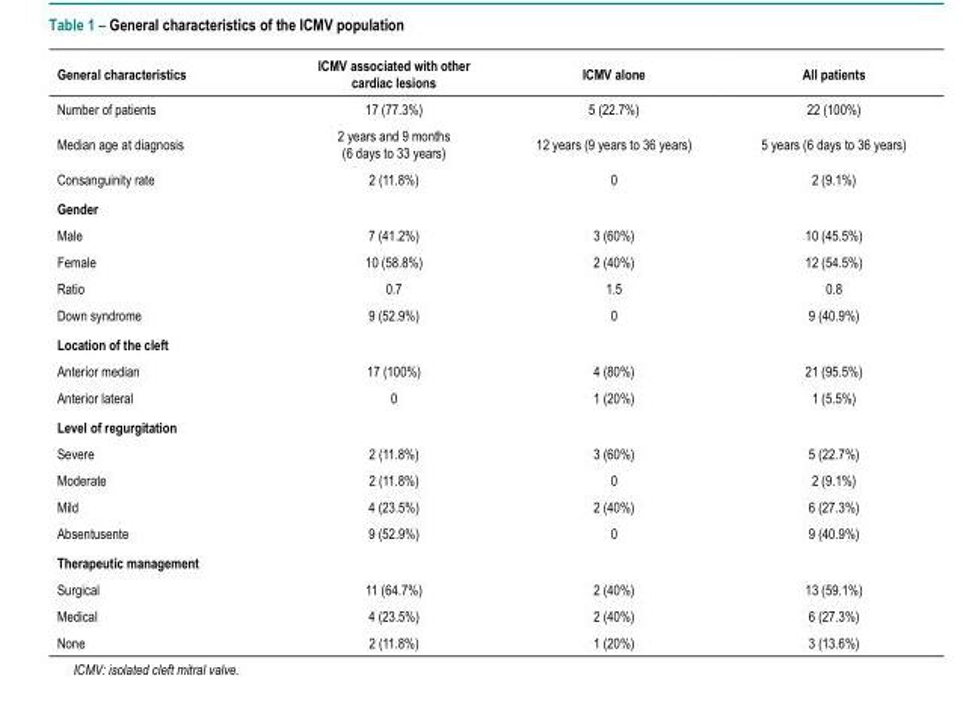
<table><thead><tr><td>General characteristics</td><td>ICMV associated with other cardiac lesions</td><td>ICMV alone</td><td>All patients</td></tr></thead><tbody><tr><td>Number of patients</td><td>17 (77.3%)</td><td>5 (22.7%)</td><td>22 (100%)</td></tr><tr><td>Median age at diagnosis</td><td>2 years and 9 months (6 days to 33 years)</td><td>12 years (9 years to 36 years)</td><td>5 years (6 days to 36 years)</td></tr><tr><td>Consanguinity rate</td><td>2 (11.8%)</td><td>0</td><td>2 (9.1%)</td></tr><tr><td colspan="4">Gender</td></tr><tr><td>Male</td><td>7 (41.2%)</td><td>3 (60%)</td><td>10 (45.5%)</td></tr><tr><td>Female</td><td>10 (58.8%)</td><td>2 (40%)</td><td>12 (54.5%)</td></tr><tr><td>Ratio</td><td>0.7</td><td>1.5</td><td>0.8</td></tr><tr><td>Down syndrome</td><td>9 (52.9%)</td><td>0</td><td>9 (40.9%)</td></tr><tr><td colspan="4">Location of the cleft</td></tr><tr><td>Anterior median</td><td>17 (100%)</td><td>4 (80%)</td><td>21 (95.5%)</td></tr><tr><td>Anterior lateral</td><td>0</td><td>1 (20%)</td><td>1 (5.5%)</td></tr><tr><td colspan="4">Level of regurgitation</td></tr><tr><td>Severe</td><td>2 (11.8%)</td><td>3 (60%)</td><td>5 (22.7%)</td></tr><tr><td>Moderate</td><td>2 (11.8%)</td><td>0</td><td>2 (9.1%)</td></tr><tr><td>Mild</td><td>4 (23.5%)</td><td>2 (40%)</td><td>6 (27.3%)</td></tr><tr><td>Absentusente</td><td>9 (52.9%)</td><td>0</td><td>9 (40.9%)</td></tr><tr><td colspan="4">Therapeutic management</td></tr><tr><td>Surgical</td><td>11 (64.7%)</td><td>2 (40%)</td><td>13 (59.1%)</td></tr><tr><td>Medical</td><td>4 (23.5%)</td><td>2 (40%)</td><td>6 (27.3%)</td></tr><tr><td>None</td><td>2 (11.8%)</td><td>1 (20%)</td><td>3 (13.6%)</td></tr></tbody></table>